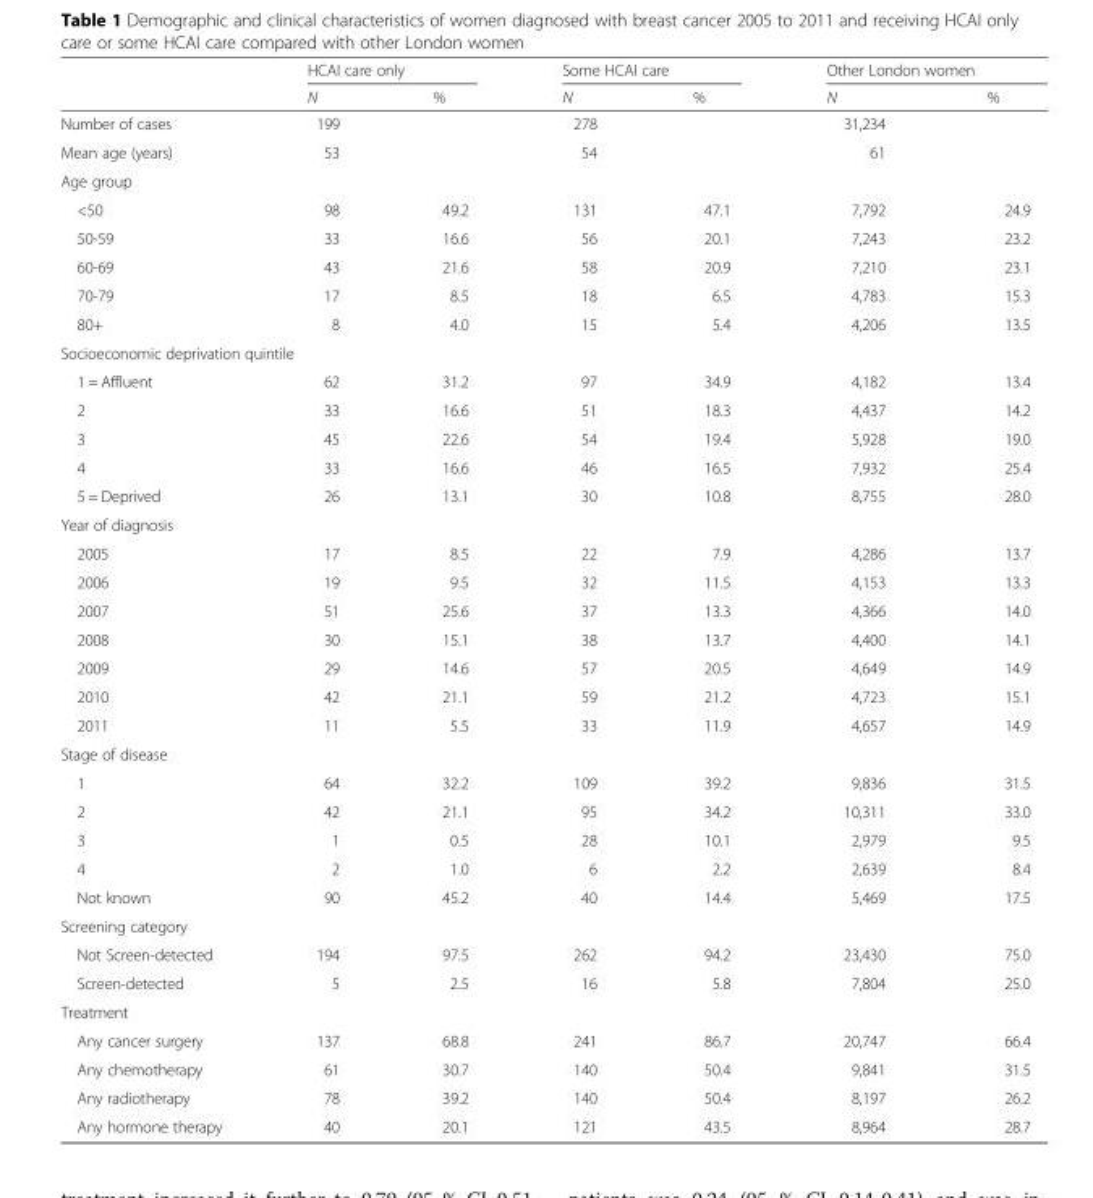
<table><thead><tr><td rowspan="2"></td><td colspan="2">HCAI care only</td><td colspan="2">Some HCAI care</td><td colspan="2">Other London women</td></tr><tr><td>N</td><td>%</td><td>N</td><td>%</td><td>N</td><td>%</td></tr></thead><tbody><tr><td>Number of cases</td><td>199</td><td></td><td>278</td><td></td><td>31,234</td><td></td></tr><tr><td>Mean age (years)</td><td>53</td><td></td><td>54</td><td></td><td>61</td><td></td></tr><tr><td colspan="7">Age group</td></tr><tr><td>&lt;50</td><td>98</td><td>49.2</td><td>131</td><td>47.1</td><td>7,792</td><td>24.9</td></tr><tr><td>50-59</td><td>33</td><td>16.6</td><td>56</td><td>20.1</td><td>7,243</td><td>23.2</td></tr><tr><td>60-69</td><td>43</td><td>21.6</td><td>58</td><td>20.9</td><td>7,210</td><td>23.1</td></tr><tr><td>70-79</td><td>17</td><td>8.5</td><td>18</td><td>6.5</td><td>4,783</td><td>15.3</td></tr><tr><td>80+</td><td>8</td><td>4.0</td><td>15</td><td>5.4</td><td>4,206</td><td>13.5</td></tr><tr><td colspan="7">Socioeconomic deprivation quintile</td></tr><tr><td>1 = Affluent</td><td>62</td><td>31.2</td><td>97</td><td>34.9</td><td>4,182</td><td>13.4</td></tr><tr><td>2</td><td>33</td><td>16.6</td><td>51</td><td>18.3</td><td>4,437</td><td>14.2</td></tr><tr><td>3</td><td>45</td><td>22.6</td><td>54</td><td>19.4</td><td>5,928</td><td>19.0</td></tr><tr><td>4</td><td>33</td><td>16.6</td><td>46</td><td>16.5</td><td>7,932</td><td>25.4</td></tr><tr><td>5 = Deprived</td><td>26</td><td>13.1</td><td>30</td><td>10.8</td><td>8,755</td><td>28.0</td></tr><tr><td colspan="7">Year of diagnosis</td></tr><tr><td>2005</td><td>17</td><td>8.5</td><td>22</td><td>7.9</td><td>4,286</td><td>13.7</td></tr><tr><td>2006</td><td>19</td><td>9.5</td><td>32</td><td>11.5</td><td>4,153</td><td>13.3</td></tr><tr><td>2007</td><td>51</td><td>25.6</td><td>37</td><td>13.3</td><td>4,366</td><td>14.0</td></tr><tr><td>2008</td><td>30</td><td>15.1</td><td>38</td><td>13.7</td><td>4,400</td><td>14.1</td></tr><tr><td>2009</td><td>29</td><td>14.6</td><td>57</td><td>20.5</td><td>4,649</td><td>14.9</td></tr><tr><td>2010</td><td>42</td><td>21.1</td><td>59</td><td>21.2</td><td>4,723</td><td>15.1</td></tr><tr><td>2011</td><td>11</td><td>5.5</td><td>33</td><td>11.9</td><td>4,657</td><td>14.9</td></tr><tr><td colspan="7">Stage of disease</td></tr><tr><td>1</td><td>64</td><td>32.2</td><td>109</td><td>39.2</td><td>9,836</td><td>31.5</td></tr><tr><td>2</td><td>42</td><td>21.1</td><td>95</td><td>34.2</td><td>10,311</td><td>33.0</td></tr><tr><td>3</td><td>1</td><td>0.5</td><td>28</td><td>10.1</td><td>2,979</td><td>9.5</td></tr><tr><td>4</td><td>2</td><td>1.0</td><td>6</td><td>2.2</td><td>2,639</td><td>8.4</td></tr><tr><td>Not known</td><td>90</td><td>45.2</td><td>40</td><td>14.4</td><td>5,469</td><td>17.5</td></tr><tr><td colspan="7">Screening category</td></tr><tr><td>Not Screen-detected</td><td>194</td><td>97.5</td><td>262</td><td>94.2</td><td>23,430</td><td>75.0</td></tr><tr><td>Screen-detected</td><td>5</td><td>2.5</td><td>16</td><td>5.8</td><td>7,804</td><td>25.0</td></tr><tr><td colspan="7">Treatment</td></tr><tr><td>Any cancer surgery</td><td>137</td><td>68.8</td><td>241</td><td>86.7</td><td>20,747</td><td>66.4</td></tr><tr><td>Any chemotherapy</td><td>61</td><td>30.7</td><td>140</td><td>50.4</td><td>9,841</td><td>31.5</td></tr><tr><td>Any radiotherapy</td><td>78</td><td>39.2</td><td>140</td><td>50.4</td><td>8,197</td><td>26.2</td></tr><tr><td>Any hormone therapy</td><td>40</td><td>20.1</td><td>121</td><td>43.5</td><td>8,964</td><td>28.7</td></tr></tbody></table>